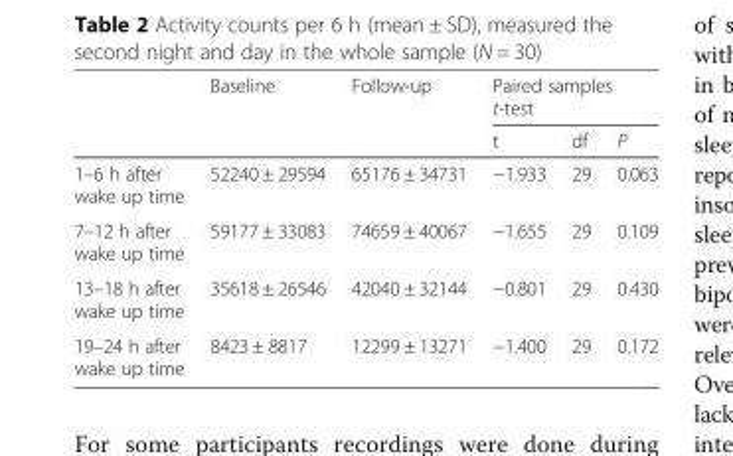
<table><thead><tr><td rowspan="2"></td><td rowspan="2">Baseline</td><td rowspan="2">Follow-up</td><td colspan="3">Paired samples t-test</td></tr><tr><td>t</td><td>df</td><td>P</td></tr></thead><tbody><tr><td>1–6 h after wake up time</td><td>52240 ± 29594</td><td>65176 ± 34731</td><td>−1.933</td><td>29</td><td>0.063</td></tr><tr><td>7–12 h after wake up time</td><td>59177 ± 33083</td><td>74659 ± 40067</td><td>−1.655</td><td>29</td><td>0.109</td></tr><tr><td>13–18 h after wake up time</td><td>35618 ± 26546</td><td>42040 ± 32144</td><td>−0.801</td><td>29</td><td>0.430</td></tr><tr><td>19–24 h after wake up time</td><td>8423 ± 8817</td><td>12299 ± 13271</td><td>−1.400</td><td>29</td><td>0.172</td></tr></tbody></table>